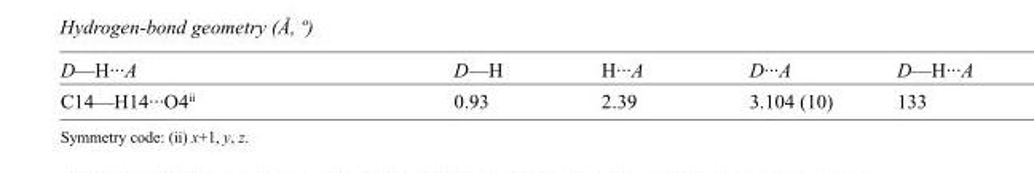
<table><tbody><tr><td>D—H···A</td><td>D—H</td><td>H···A</td><td>D···A</td><td>D—H···A</td></tr><tr><td>C14—H14···O4<sup>ii</sup></td><td>0.93</td><td>2.39</td><td>3.104 (10)</td><td>133</td></tr></tbody></table>